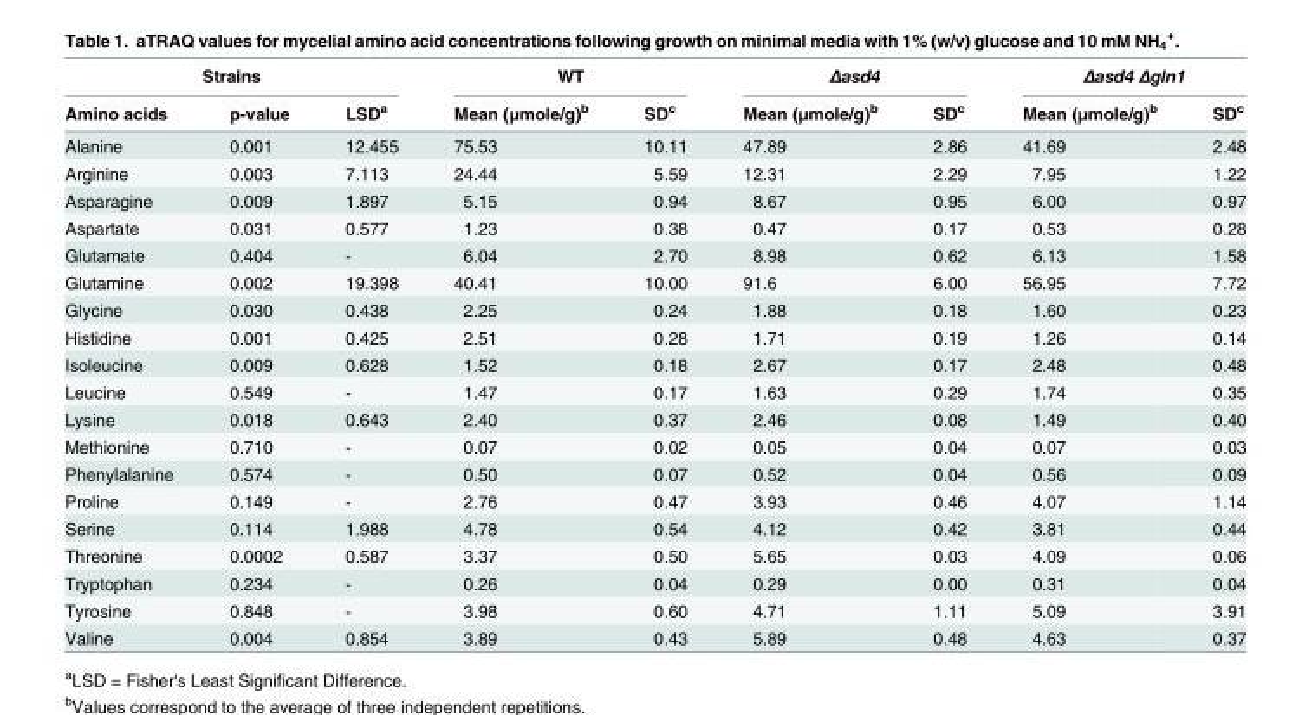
<table><thead><tr><td colspan="3">Strains</td><td colspan="2">WT</td><td colspan="2">Δasd4</td><td colspan="2">Δasd4 Δgln1</td></tr><tr><td>Amino acids</td><td>p-value</td><td>LSD<sup>a</sup></td><td>Mean (μmole/g)<sup>b</sup></td><td>SD<sup>c</sup></td><td>Mean (μmole/g)<sup>b</sup></td><td>SD<sup>c</sup></td><td>Mean (μmole/g)<sup>b</sup></td><td>SD<sup>c</sup></td></tr></thead><tbody><tr><td>Alanine</td><td>0.001</td><td>12.455</td><td>75.53</td><td>10.11</td><td>47.89</td><td>2.86</td><td>41.69</td><td>2.48</td></tr><tr><td>Arginine</td><td>0.003</td><td>7.113</td><td>24.44</td><td>5.59</td><td>12.31</td><td>2.29</td><td>7.95</td><td>1.22</td></tr><tr><td>Asparagine</td><td>0.009</td><td>1.897</td><td>5.15</td><td>0.94</td><td>8.67</td><td>0.95</td><td>6.00</td><td>0.97</td></tr><tr><td>Aspartate</td><td>0.031</td><td>0.577</td><td>1.23</td><td>0.38</td><td>0.47</td><td>0.17</td><td>0.53</td><td>0.28</td></tr><tr><td>Glutamate</td><td>0.404</td><td>-</td><td>6.04</td><td>2.70</td><td>8.98</td><td>0.62</td><td>6.13</td><td>1.58</td></tr><tr><td>Glutamine</td><td>0.002</td><td>19.398</td><td>40.41</td><td>10.00</td><td>91.6</td><td>6.00</td><td>56.95</td><td>7.72</td></tr><tr><td>Glycine</td><td>0.030</td><td>0.438</td><td>2.25</td><td>0.24</td><td>1.88</td><td>0.18</td><td>1.60</td><td>0.23</td></tr><tr><td>Histidine</td><td>0.001</td><td>0.425</td><td>2.51</td><td>0.28</td><td>1.71</td><td>0.19</td><td>1.26</td><td>0.14</td></tr><tr><td>Isoleucine</td><td>0.009</td><td>0.628</td><td>1.52</td><td>0.18</td><td>2.67</td><td>0.17</td><td>2.48</td><td>0.48</td></tr><tr><td>Leucine</td><td>0.549</td><td>-</td><td>1.47</td><td>0.17</td><td>1.63</td><td>0.29</td><td>1.74</td><td>0.35</td></tr><tr><td>Lysine</td><td>0.018</td><td>0.643</td><td>2.40</td><td>0.37</td><td>2.46</td><td>0.08</td><td>1.49</td><td>0.40</td></tr><tr><td>Methionine</td><td>0.710</td><td>-</td><td>0.07</td><td>0.02</td><td>0.05</td><td>0.04</td><td>0.07</td><td>0.03</td></tr><tr><td>Phenylalanine</td><td>0.574</td><td>-</td><td>0.50</td><td>0.07</td><td>0.52</td><td>0.04</td><td>0.56</td><td>0.09</td></tr><tr><td>Proline</td><td>0.149</td><td>-</td><td>2.76</td><td>0.47</td><td>3.93</td><td>0.46</td><td>4.07</td><td>1.14</td></tr><tr><td>Serine</td><td>0.114</td><td>1.988</td><td>4.78</td><td>0.54</td><td>4.12</td><td>0.42</td><td>3.81</td><td>0.44</td></tr><tr><td>Threonine</td><td>0.0002</td><td>0.587</td><td>3.37</td><td>0.50</td><td>5.65</td><td>0.03</td><td>4.09</td><td>0.06</td></tr><tr><td>Tryptophan</td><td>0.234</td><td>-</td><td>0.26</td><td>0.04</td><td>0.29</td><td>0.00</td><td>0.31</td><td>0.04</td></tr><tr><td>Tyrosine</td><td>0.848</td><td>-</td><td>3.98</td><td>0.60</td><td>4.71</td><td>1.11</td><td>5.09</td><td>3.91</td></tr><tr><td>Valine</td><td>0.004</td><td>0.854</td><td>3.89</td><td>0.43</td><td>5.89</td><td>0.48</td><td>4.63</td><td>0.37</td></tr></tbody></table>